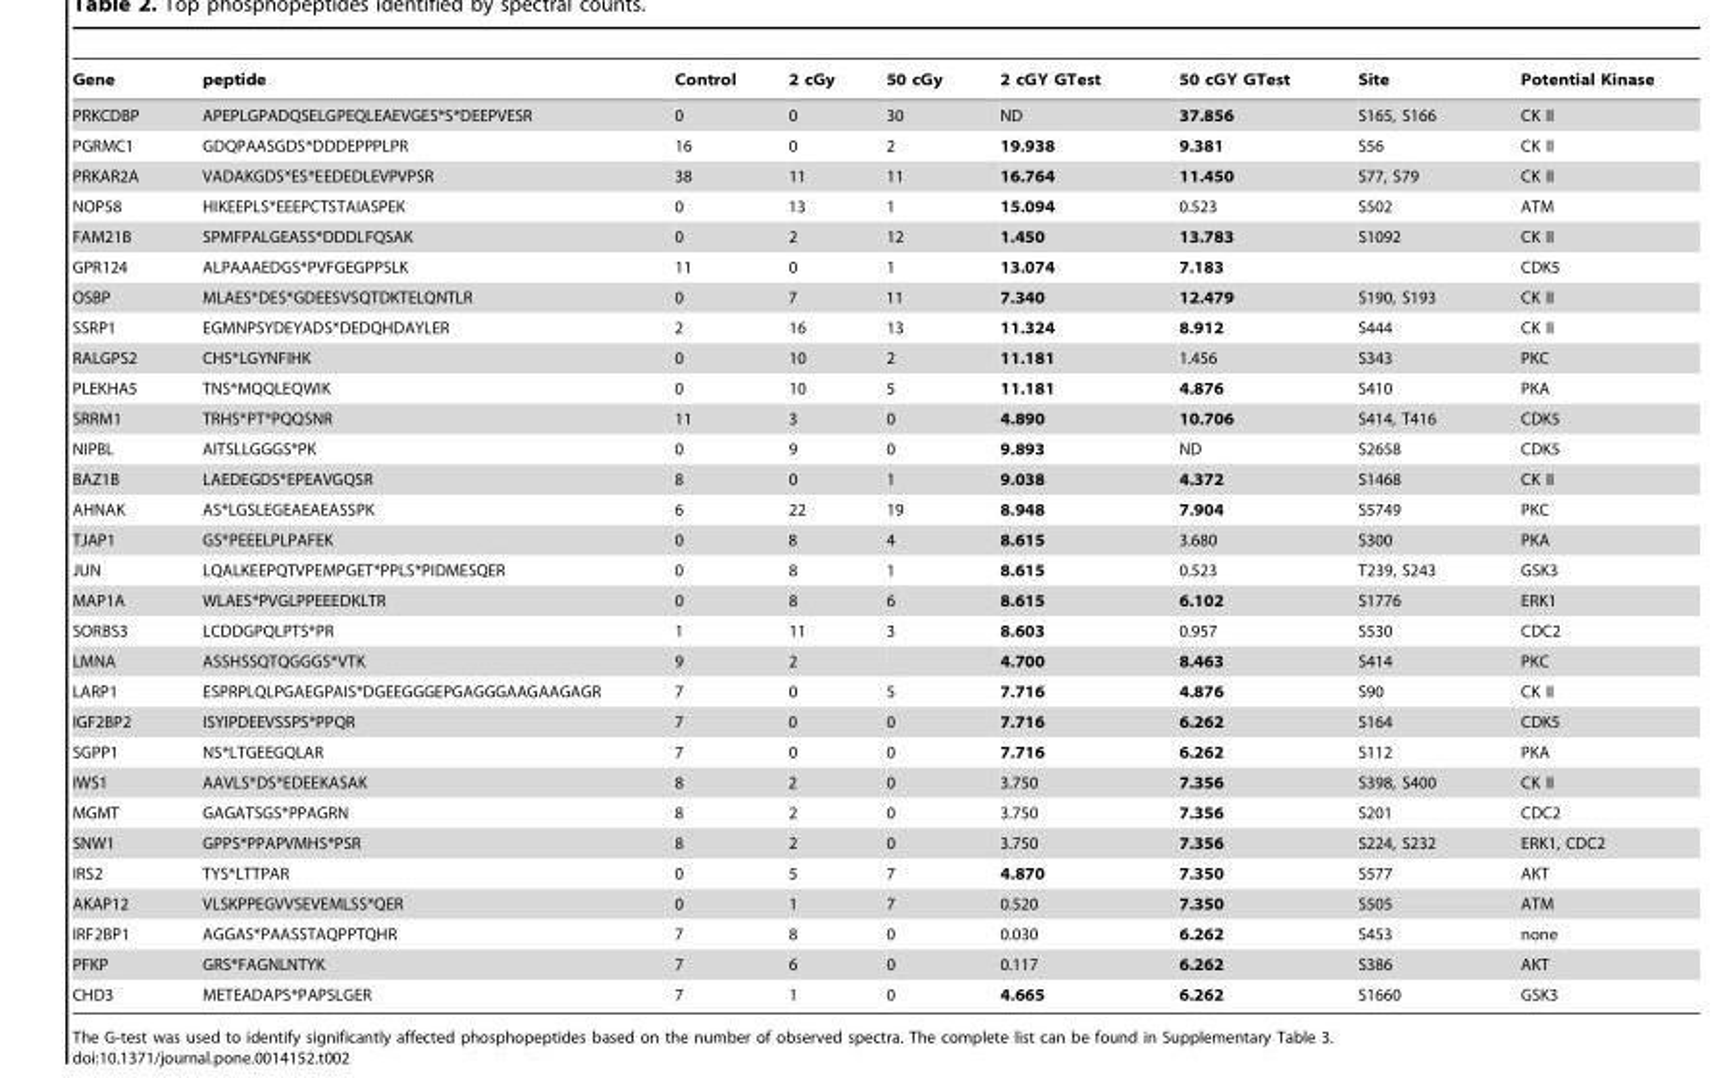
<table><thead><tr><td>Gene</td><td>peptide</td><td>Control</td><td>2 cGy</td><td>50 cGy</td><td>2 cGY GTest</td><td>50 cGY GTest</td><td>Site</td><td>Potential Kinase</td></tr></thead><tbody><tr><td>PRKCDBP</td><td>APEPLGPADQSELGPEQLEAEVGES*S*DEEPVESR</td><td>0</td><td>0</td><td>30</td><td>ND</td><td>37.856</td><td>S165, S166</td><td>CK II</td></tr><tr><td>PGRMC1</td><td>GDQPAASGDS*DDDEPPPLPR</td><td>16</td><td>0</td><td>2</td><td>19.938</td><td>9.381</td><td>S56</td><td>CK II</td></tr><tr><td>PRKAR2A</td><td>VADAKGDS*ES*EEDEDLEVPVPSR</td><td>38</td><td>11</td><td>11</td><td>16.764</td><td>11.450</td><td>S77, S79</td><td>CK II</td></tr><tr><td>NOP58</td><td>HIKEEPLS*EEEPCTSTAIASPEK</td><td>0</td><td>13</td><td>1</td><td>15.094</td><td>0.523</td><td>S502</td><td>ATM</td></tr><tr><td>FAM21B</td><td>SPMFPALGEASS*DDDLFQSAK</td><td>0</td><td>2</td><td>12</td><td>1.450</td><td>13.783</td><td>S1092</td><td>CK II</td></tr><tr><td>GPR124</td><td>ALPAAAEDGS*PVFGEGPPSLK</td><td>11</td><td>0</td><td>1</td><td>13.074</td><td>7.183</td><td></td><td>CDK5</td></tr><tr><td>OSBP</td><td>MLAES*DES*GDEESVSQTDKTELQNTLR</td><td>0</td><td>7</td><td>11</td><td>7.340</td><td>12.479</td><td>S190, S193</td><td>CK II</td></tr><tr><td>SSRP1</td><td>EGMNPSYDEYADS*DEDQHDAYLER</td><td>2</td><td>16</td><td>13</td><td>11.324</td><td>8.912</td><td>S444</td><td>CK II</td></tr><tr><td>RALGPS2</td><td>CHS*LGYNFIHK</td><td>0</td><td>10</td><td>2</td><td>11.181</td><td>1.456</td><td>S343</td><td>PKC</td></tr><tr><td>PLEKHA5</td><td>TNS*MQQLEQWIK</td><td>0</td><td>10</td><td>5</td><td>11.181</td><td>4.876</td><td>S410</td><td>PKA</td></tr><tr><td>SRRM1</td><td>TRHS*PT*PQQSNR</td><td>11</td><td>3</td><td>0</td><td>4.890</td><td>10.706</td><td>S414, T416</td><td>CDK5</td></tr><tr><td>NIPBL</td><td>AITSLLGGGS*PK</td><td>0</td><td>9</td><td>0</td><td>9.893</td><td>ND</td><td>S2658</td><td>CDK5</td></tr><tr><td>BAZ1B</td><td>LAEDEGDS*EPEAVGQSR</td><td>8</td><td>0</td><td>1</td><td>9.038</td><td>4.372</td><td>S1468</td><td>CK II</td></tr><tr><td>AHNAK</td><td>AS*LGSLEGEAEAEASSPK</td><td>6</td><td>22</td><td>19</td><td>8.948</td><td>7.904</td><td>S5749</td><td>PKC</td></tr><tr><td>TJAP1</td><td>GS*PEEELPLPAFEK</td><td>0</td><td>8</td><td>4</td><td>8.615</td><td>3.680</td><td>S300</td><td>PKA</td></tr><tr><td>JUN</td><td>LQALKEEPQTVPEMPGET*PPLS*PIDMESQER</td><td>0</td><td>8</td><td>1</td><td>8.615</td><td>0.523</td><td>T239, S243</td><td>GSK3</td></tr><tr><td>MAP1A</td><td>WLAES*PVGLPPEEEDKLTR</td><td>0</td><td>8</td><td>6</td><td>8.615</td><td>6.102</td><td>S1776</td><td>ERK1</td></tr><tr><td>SORBS3</td><td>LCDDGPQLPTS*PR</td><td>1</td><td>11</td><td>3</td><td>8.603</td><td>0.957</td><td>S530</td><td>CDC2</td></tr><tr><td>LMNA</td><td>ASSHSSQTQGGGS*VTK</td><td>9</td><td>2</td><td></td><td>4.700</td><td>8.463</td><td>S414</td><td>PKC</td></tr><tr><td>LARP1</td><td>ESPRPLQLPGAEGPAIS*DGEEGGGEPGAGGGAAGAAGAGR</td><td>7</td><td>0</td><td>5</td><td>7.716</td><td>4.876</td><td>S90</td><td>CK II</td></tr><tr><td>IGF2BP2</td><td>ISYIPDEEVSSPS*PPQR</td><td>7</td><td>0</td><td>0</td><td>7.716</td><td>6.262</td><td>S164</td><td>CDK5</td></tr><tr><td>SGPP1</td><td>NS*LTGEEGQLAR</td><td>7</td><td>0</td><td>0</td><td>7.716</td><td>6.262</td><td>S112</td><td>PKA</td></tr><tr><td>IWS1</td><td>AAVLS*DS*EDEEKASAK</td><td>8</td><td>2</td><td>0</td><td>3.750</td><td>7.356</td><td>S398, S400</td><td>CK II</td></tr><tr><td>MGMT</td><td>GAGATSGS*PPAGRN</td><td>8</td><td>2</td><td>0</td><td>3.750</td><td>7.356</td><td>S201</td><td>CDC2</td></tr><tr><td>SNW1</td><td>GPPS*PPAPVMHS*PSR</td><td>8</td><td>2</td><td>0</td><td>3.750</td><td>7.356</td><td>S224, S232</td><td>ERK1, CDC2</td></tr><tr><td>IRS2</td><td>TYS*LTTPAR</td><td>0</td><td>5</td><td>7</td><td>4.870</td><td>7.350</td><td>S577</td><td>AKT</td></tr><tr><td>AKAP12</td><td>VLSKPPEGVVSEVEMLSS*QER</td><td>0</td><td>1</td><td>7</td><td>0.520</td><td>7.350</td><td>S505</td><td>ATM</td></tr><tr><td>IRF2BP1</td><td>AGGAS*PAASSTAQPPTQHR</td><td>7</td><td>8</td><td>0</td><td>0.030</td><td>6.262</td><td>S453</td><td>none</td></tr><tr><td>PFKP</td><td>GRS*FAGNLNTYK</td><td>7</td><td>6</td><td>0</td><td>0.117</td><td>6.262</td><td>S386</td><td>AKT</td></tr><tr><td>CHD3</td><td>METEADAPS*PAPSLGER</td><td>7</td><td>1</td><td>0</td><td>4.665</td><td>6.262</td><td>S1660</td><td>GSK3</td></tr></tbody></table>